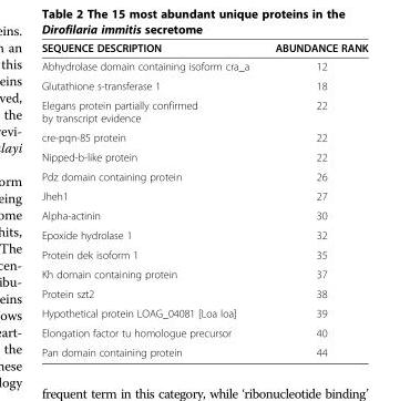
<table><thead><tr><td>SEQUENCE DESCRIPTION</td><td>ABUNDANCE RANK</td></tr></thead><tbody><tr><td>Abhydrolase domain containing isoform cra_a</td><td>12</td></tr><tr><td>Glutathione s-transferase 1</td><td>18</td></tr><tr><td>Elegans protein partially confirmed by transcript evidence</td><td>22</td></tr><tr><td>cre-pqn-85 protein</td><td>22</td></tr><tr><td>Nipped-b-like protein</td><td>22</td></tr><tr><td>Pdz domain containing protein</td><td>26</td></tr><tr><td>Jheh1</td><td>27</td></tr><tr><td>Alpha-actinin</td><td>30</td></tr><tr><td>Epoxide hydrolase 1</td><td>32</td></tr><tr><td>Protein dek isoform 1</td><td>35</td></tr><tr><td>Kh domain containing protein</td><td>37</td></tr><tr><td>Protein szt2</td><td>38</td></tr><tr><td>Hypothetical protein LOAG_04081 [Loa loa]</td><td>39</td></tr><tr><td>Elongation factor tu homologue precursor</td><td>40</td></tr><tr><td>Pan domain containing protein</td><td>44</td></tr></tbody></table>